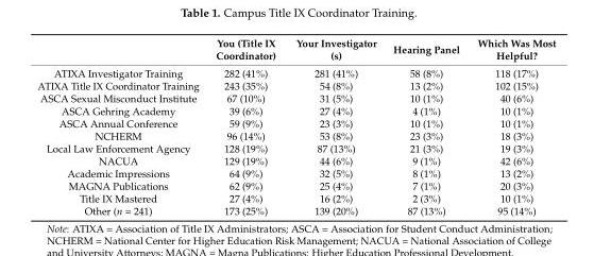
<table><thead><tr><td></td><td>You (Title IX Coordinator)</td><td>Your Investigator (s)</td><td>Hearing Panel</td><td>Which Was Most Helpful?</td></tr></thead><tbody><tr><td>ATIXA Investigator Training</td><td>282 (41%)</td><td>281 (41%)</td><td>58 (8%)</td><td>118 (17%)</td></tr><tr><td>ATIXA Title IX Coordinator Training</td><td>243 (35%)</td><td>54 (8%)</td><td>13 (2%)</td><td>102 (15%)</td></tr><tr><td>ASCA Sexual Misconduct Institute</td><td>67 (10%)</td><td>31 (5%)</td><td>10 (1%)</td><td>40 (6%)</td></tr><tr><td>ASCA Gehring Academy</td><td>39 (6%)</td><td>27 (4%)</td><td>4 (1%)</td><td>10 (1%)</td></tr><tr><td>ASCA Annual Conference</td><td>59 (9%)</td><td>23 (3%)</td><td>10 (1%)</td><td>10 (1%)</td></tr><tr><td>NCHERM</td><td>96 (14%)</td><td>53 (8%)</td><td>23 (3%)</td><td>18 (3%)</td></tr><tr><td>Local Law Enforcement Agency</td><td>128 (19%)</td><td>87 (13%)</td><td>21 (3%)</td><td>19 (3%)</td></tr><tr><td>NACUA</td><td>129 (19%)</td><td>44 (6%)</td><td>9 (1%)</td><td>42 (6%)</td></tr><tr><td>Academic Impressions</td><td>64 (9%)</td><td>32 (5%)</td><td>8 (1%)</td><td>13 (2%)</td></tr><tr><td>MAGNA Publications</td><td>62 (9%)</td><td>25 (4%)</td><td>7 (1%)</td><td>20 (3%)</td></tr><tr><td>Title IX Mastered</td><td>27 (4%)</td><td>16 (2%)</td><td>2 (3%)</td><td>10 (1%)</td></tr><tr><td>Other (n = 241)</td><td>173 (25%)</td><td>139 (20%)</td><td>87 (13%)</td><td>95 (14%)</td></tr></tbody></table>